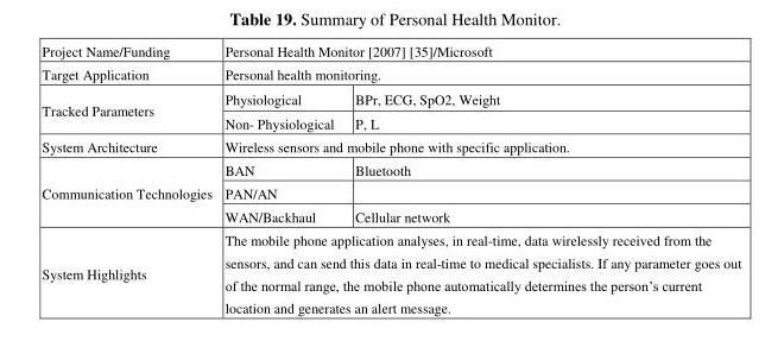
<table><tbody><tr><td>Project Name/Funding</td><td colspan="2">Personal Health Monitor [2007] [35]/Microsoft</td></tr><tr><td>Target Application</td><td colspan="2">Personal health monitoring.</td></tr><tr><td rowspan="2">Tracked Parameters</td><td>Physiological</td><td>BPr, ECG, SpO2, Weight</td></tr><tr><td>Non- Physiological</td><td>P, L</td></tr><tr><td>System Architecture</td><td colspan="2">Wireless sensors and mobile phone with specific application.</td></tr><tr><td rowspan="3">Communication Technologies</td><td>BAN</td><td>Bluetooth</td></tr><tr><td>PAN/AN</td><td></td></tr><tr><td>WAN/Backhaul</td><td>Cellular network</td></tr><tr><td>System Highlights</td><td colspan="2">The mobile phone application analyses, in real-time, data wirelessly received from the sensors, and can send this data in real-time to medical specialists. If any parameter goes out of the normal range, the mobile phone automatically determines the person’s current location and generates an alert message.</td></tr></tbody></table>